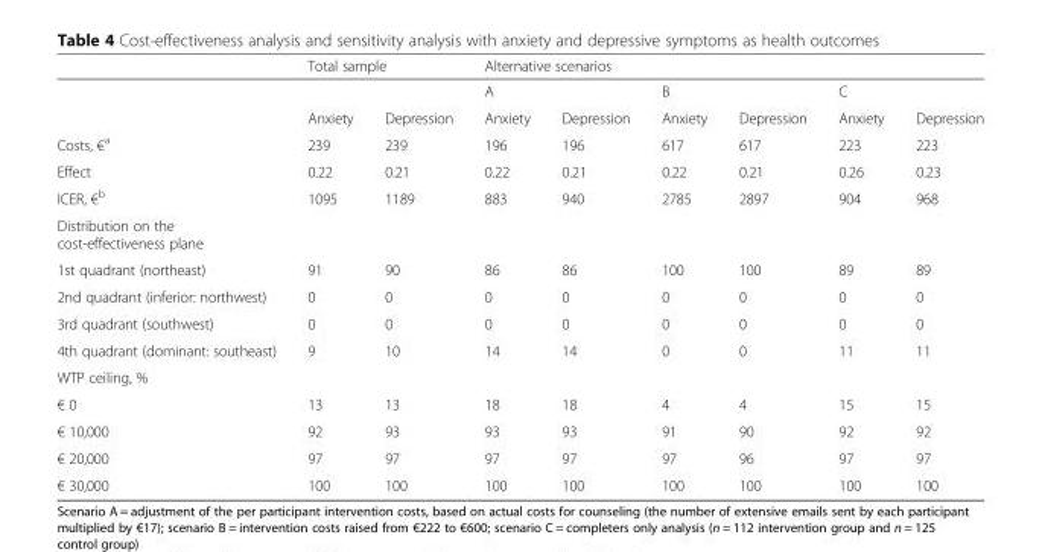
<table><thead><tr><td rowspan="3"></td><td colspan="2">Total sample</td><td colspan="6">Alternative scenarios</td></tr><tr><td rowspan="2">Anxiety</td><td rowspan="2">Depression</td><td colspan="2">A</td><td colspan="2">B</td><td colspan="2">C</td></tr><tr><td>Anxiety</td><td>Depression</td><td>Anxiety</td><td>Depression</td><td>Anxiety</td><td>Depression</td></tr></thead><tbody><tr><td>Costs, €<sup>a</sup></td><td>239</td><td>239</td><td>196</td><td>196</td><td>617</td><td>617</td><td>223</td><td>223</td></tr><tr><td>Effect</td><td>0.22</td><td>0.21</td><td>0.22</td><td>0.21</td><td>0.22</td><td>0.21</td><td>0.26</td><td>0.23</td></tr><tr><td>ICER, €<sup>b</sup></td><td>1095</td><td>1189</td><td>883</td><td>940</td><td>2785</td><td>2897</td><td>904</td><td>968</td></tr><tr><td colspan="9">Distribution on the cost-effectiveness plane</td></tr><tr><td>1st quadrant (northeast)</td><td>91</td><td>90</td><td>86</td><td>86</td><td>100</td><td>100</td><td>89</td><td>89</td></tr><tr><td>2nd quadrant (inferior: northwest)</td><td>0</td><td>0</td><td>0</td><td>0</td><td>0</td><td>0</td><td>0</td><td>0</td></tr><tr><td>3rd quadrant (southwest)</td><td>0</td><td>0</td><td>0</td><td>0</td><td>0</td><td>0</td><td>0</td><td>0</td></tr><tr><td>4th quadrant (dominant: southeast)</td><td>9</td><td>10</td><td>14</td><td>14</td><td>0</td><td>0</td><td>11</td><td>11</td></tr><tr><td colspan="9">WTP ceiling, %</td></tr><tr><td>€ 0</td><td>13</td><td>13</td><td>18</td><td>18</td><td>4</td><td>4</td><td>15</td><td>15</td></tr><tr><td>€ 10,000</td><td>92</td><td>93</td><td>93</td><td>93</td><td>91</td><td>90</td><td>92</td><td>92</td></tr><tr><td>€ 20,000</td><td>97</td><td>97</td><td>97</td><td>97</td><td>97</td><td>96</td><td>97</td><td>97</td></tr><tr><td>€ 30,000</td><td>100</td><td>100</td><td>100</td><td>100</td><td>100</td><td>100</td><td>100</td><td>100</td></tr></tbody></table>